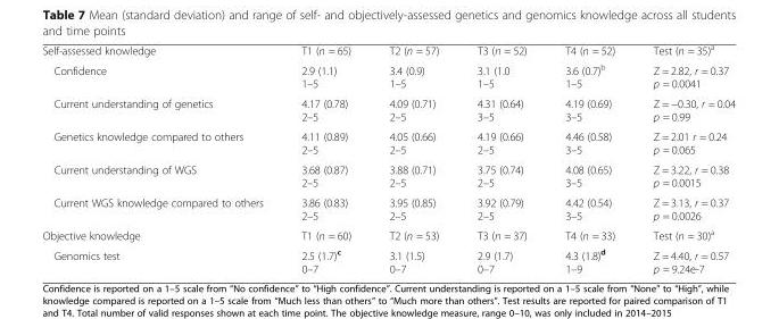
<table><tbody><tr><td>Self-assessed knowledge</td><td>T1 (n = 65)</td><td>T2 (n = 57)</td><td>T3 (n = 52)</td><td>T4 (n = 52)</td><td>Test (n = 35)<sup>a</sup></td></tr><tr><td>Confidence</td><td>2.9 (1.1) 1–5</td><td>3.4 (0.9) 1–5</td><td>3.1 (1.0 1–5</td><td>3.6 (0.7)<sup>b</sup> 1–5</td><td>Z = 2.82, r = 0.37 p = 0.0041</td></tr><tr><td>Current understanding of genetics</td><td>4.17 (0.78) 2–5</td><td>4.09 (0.71) 2–5</td><td>4.31 (0.64) 3–5</td><td>4.19 (0.69) 3–5</td><td>Z = −0.30, r = 0.04 p = 0.99</td></tr><tr><td>Genetics knowledge compared to others</td><td>4.11 (0.89) 2–5</td><td>4.05 (0.66) 2–5</td><td>4.19 (0.66) 2–5</td><td>4.46 (0.58) 3–5</td><td>Z = 2.01 r = 0.24 p = 0.065</td></tr><tr><td>Current understanding of WGS</td><td>3.68 (0.87) 2–5</td><td>3.88 (0.71) 2–5</td><td>3.75 (0.74) 2–5</td><td>4.08 (0.65) 3–5</td><td>Z = 3.22, r = 0.38 p = 0.0015</td></tr><tr><td>Current WGS knowledge compared to others</td><td>3.86 (0.83) 2–5</td><td>3.95 (0.85) 2–5</td><td>3.92 (0.79) 2–5</td><td>4.42 (0.54) 3–5</td><td>Z = 3.13, r = 0.37 p = 0.0026</td></tr><tr><td>Objective knowledge</td><td>T1 (n = 60)</td><td>T2 (n = 53)</td><td>T3 (n = 37)</td><td>T4 (n = 33)</td><td>Test (n = 30)<sup>a</sup></td></tr><tr><td>Genomics test</td><td>2.5 (1.7)<sup>c</sup> 0–7</td><td>3.1 (1.5) 0–7</td><td>2.9 (1.7) 0–7</td><td>4.3 (1.8)<sup>d</sup> 1–9</td><td>Z = 4.40, r = 0.57 p = 9.24e-7</td></tr></tbody></table>